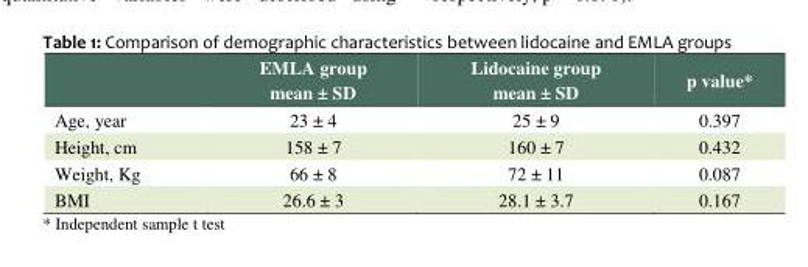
<table><thead><tr><td></td><td>EMLA group mean ± SD</td><td>Lidocaine group mean ± SD</td><td>p value*</td></tr></thead><tbody><tr><td>Age, year</td><td>23 ± 4</td><td>25 ± 9</td><td>0.397</td></tr><tr><td>Height, cm</td><td>158 ± 7</td><td>160 ± 7</td><td>0.432</td></tr><tr><td>Weight, Kg</td><td>66 ± 8</td><td>72 ± 11</td><td>0.087</td></tr><tr><td>BMI</td><td>26.6 ± 3</td><td>28.1 ± 3.7</td><td>0.167</td></tr></tbody></table>